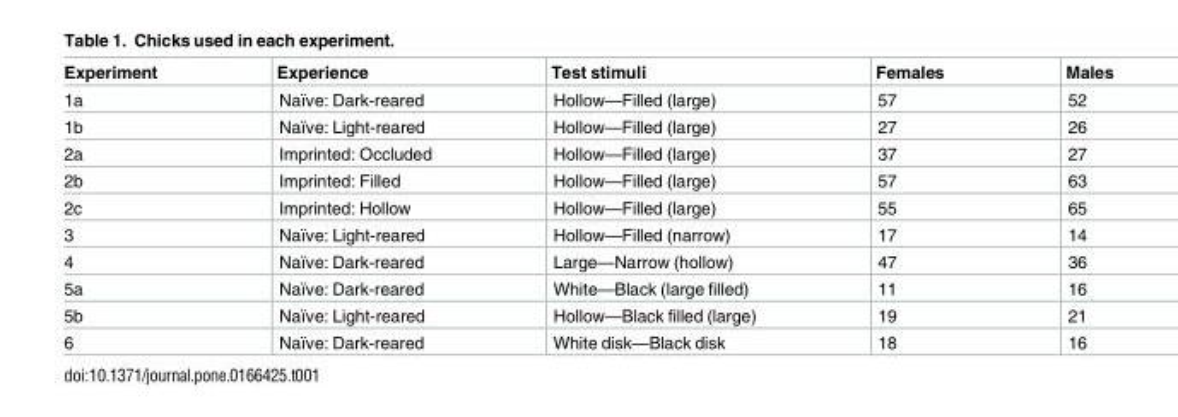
<table><thead><tr><td>Experiment</td><td>Experience</td><td>Test stimuli</td><td>Females</td><td>Males</td></tr></thead><tbody><tr><td>1a</td><td>Naïve: Dark-reared</td><td>Hollow—Filled (large)</td><td>57</td><td>52</td></tr><tr><td>1b</td><td>Naïve: Light-reared</td><td>Hollow—Filled (large)</td><td>27</td><td>26</td></tr><tr><td>2a</td><td>Imprinted: Occluded</td><td>Hollow—Filled (large)</td><td>37</td><td>27</td></tr><tr><td>2b</td><td>Imprinted: Filled</td><td>Hollow—Filled (large)</td><td>57</td><td>63</td></tr><tr><td>2c</td><td>Imprinted: Hollow</td><td>Hollow—Filled (large)</td><td>55</td><td>65</td></tr><tr><td>3</td><td>Naïve: Light-reared</td><td>Hollow—Filled (narrow)</td><td>17</td><td>14</td></tr><tr><td>4</td><td>Naïve: Dark-reared</td><td>Large—Narrow (hollow)</td><td>47</td><td>36</td></tr><tr><td>5a</td><td>Naïve: Dark-reared</td><td>White—Black (large filled)</td><td>11</td><td>16</td></tr><tr><td>5b</td><td>Naïve: Light-reared</td><td>Hollow—Black filled (large)</td><td>19</td><td>21</td></tr><tr><td>6</td><td>Naïve: Dark-reared</td><td>White disk—Black disk</td><td>18</td><td>16</td></tr></tbody></table>